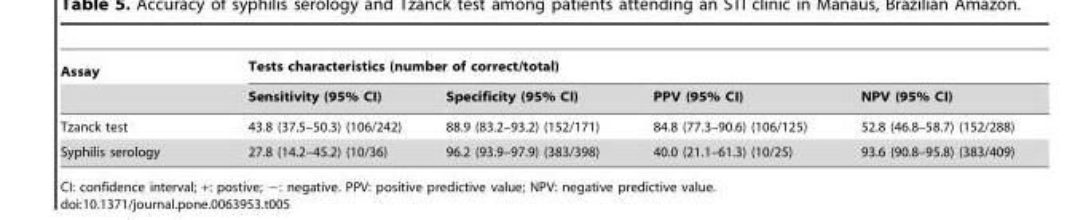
<table><thead><tr><td rowspan="2">Assay</td><td colspan="4">Tests characteristics (number of correct/total)</td></tr><tr><td>Sensitivity (95% CI)</td><td>Specificity (95% CI)</td><td>PPV (95% CI)</td><td>NPV (95% CI)</td></tr></thead><tbody><tr><td>Tzanck test</td><td>43.8 (37.5–50.3) (106/242)</td><td>88.9 (83.2–93.2) (152/171)</td><td>84.8 (77.3–90.6) (106/125)</td><td>52.8 (46.8–58.7) (152/288)</td></tr><tr><td>Syphilis serology</td><td>27.8 (14.2–45.2) (10/36)</td><td>96.2 (93.9–97.9) (383/398)</td><td>40.0 (21.1–61.3) (10/25)</td><td>93.6 (90.8–95.8) (383/409)</td></tr></tbody></table>